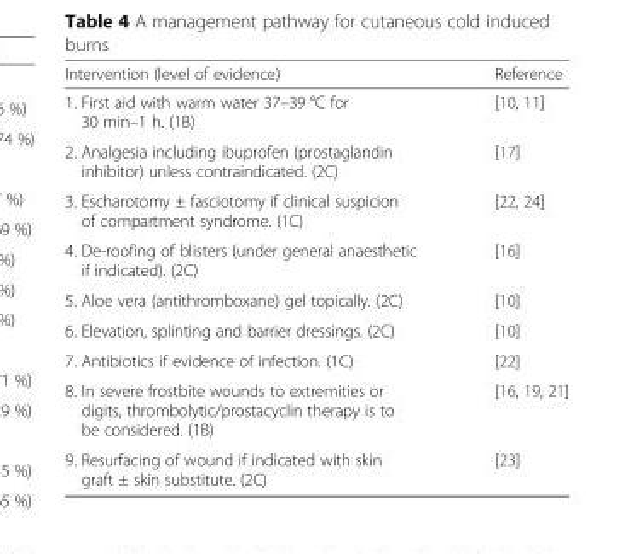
<table><thead><tr><td>Intervention (level of evidence)</td><td>Reference</td></tr></thead><tbody><tr><td>1. First aid with warm water 37–39 °C for 30 min–1 h. (1B)</td><td>[10, 11]</td></tr><tr><td>2. Analgesia including ibuprofen (prostaglandin inhibitor) unless contraindicated. (2C)</td><td>[17]</td></tr><tr><td>3. Escharotomy ± fasciotomy if clinical suspicion of compartment syndrome. (1C)</td><td>[22, 24]</td></tr><tr><td>4. De-roofing of blisters (under general anaesthetic if indicated). (2C)</td><td>[16]</td></tr><tr><td>5. Aloe vera (antithromboxane) gel topically. (2C)</td><td>[10]</td></tr><tr><td>6. Elevation, splinting and barrier dressings. (2C)</td><td>[10]</td></tr><tr><td>7. Antibiotics if evidence of infection. (1C)</td><td>[22]</td></tr><tr><td>8. In severe frostbite wounds to extremities or digits, thrombolytic/prostacyclin therapy is to be considered. (1B)</td><td>[16, 19, 21]</td></tr><tr><td>9. Resurfacing of wound if indicated with skin graft ± skin substitute. (2C)</td><td>[23]</td></tr></tbody></table>